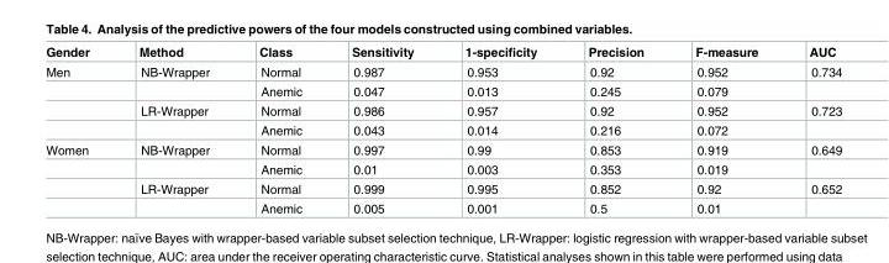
<table><thead><tr><td>Gender</td><td>Method</td><td>Class</td><td>Sensitivity</td><td>1-specificity</td><td>Precision</td><td>F-measure</td><td>AUC</td></tr></thead><tbody><tr><td rowspan="4">Men</td><td>NB-Wrapper</td><td>Normal</td><td>0.987</td><td>0.953</td><td>0.92</td><td>0.952</td><td>0.734</td></tr><tr><td></td><td>Anemic</td><td>0.047</td><td>0.013</td><td>0.245</td><td>0.079</td><td></td></tr><tr><td>LR-Wrapper</td><td>Normal</td><td>0.986</td><td>0.957</td><td>0.92</td><td>0.952</td><td>0.723</td></tr><tr><td></td><td>Anemic</td><td>0.043</td><td>0.014</td><td>0.216</td><td>0.072</td><td></td></tr><tr><td rowspan="4">Women</td><td>NB-Wrapper</td><td>Normal</td><td>0.997</td><td>0.99</td><td>0.853</td><td>0.919</td><td>0.649</td></tr><tr><td></td><td>Anemic</td><td>0.01</td><td>0.003</td><td>0.353</td><td>0.019</td><td></td></tr><tr><td>LR-Wrapper</td><td>Normal</td><td>0.999</td><td>0.995</td><td>0.852</td><td>0.92</td><td>0.652</td></tr><tr><td></td><td>Anemic</td><td>0.005</td><td>0.001</td><td>0.5</td><td>0.01</td><td></td></tr></tbody></table>